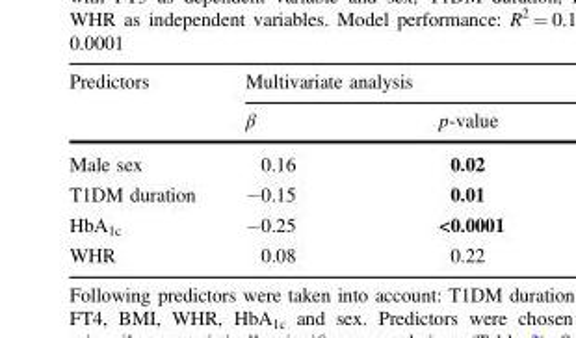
<table><thead><tr><td rowspan="2">Predictors</td><td colspan="2">Multivariate analysis</td></tr><tr><td>β</td><td>p-value</td></tr></thead><tbody><tr><td>Male sex</td><td>0.16</td><td>0.02</td></tr><tr><td>T1DM duration</td><td>−0.15</td><td>0.01</td></tr><tr><td>HbA<sub>1c</sub></td><td>−0.25</td><td>&lt;0.0001</td></tr><tr><td>WHR</td><td>0.08</td><td>0.22</td></tr></tbody></table>